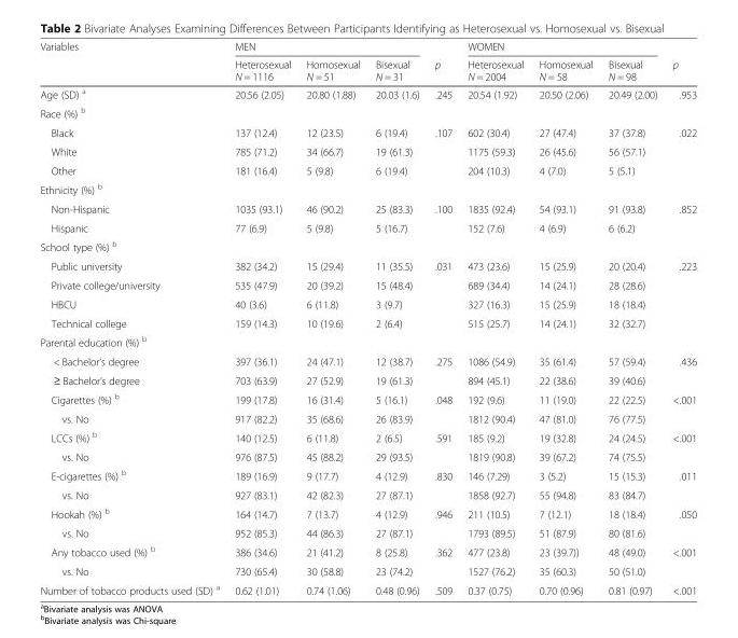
<table><thead><tr><td rowspan="2">Variables</td><td colspan="3">MEN</td><td rowspan="2">p</td><td colspan="3">WOMEN</td><td rowspan="2">p</td></tr><tr><td>Heterosexual N = 1116</td><td>Homosexual N = 51</td><td>Bisexual N = 31</td><td>Heterosexual N = 2004</td><td>Homosexual N = 58</td><td>Bisexual N = 98</td></tr></thead><tbody><tr><td>Age (SD) <sup>a</sup></td><td>20.56 (2.05)</td><td>20.80 (1.88)</td><td>20.03 (1.6)</td><td>.245</td><td>20.54 (1.92)</td><td>20.50 (2.06)</td><td>20.49 (2.00)</td><td>.953</td></tr><tr><td colspan="9">Race (%) <sup>b</sup></td></tr><tr><td>Black</td><td>137 (12.4)</td><td>12 (23.5)</td><td>6 (19.4)</td><td>.107</td><td>602 (30.4)</td><td>27 (47.4)</td><td>37 (37.8)</td><td>.022</td></tr><tr><td>White</td><td>785 (71.2)</td><td>34 (66.7)</td><td>19 (61.3)</td><td></td><td>1175 (59.3)</td><td>26 (45.6)</td><td>56 (57.1)</td><td></td></tr><tr><td>Other</td><td>181 (16.4)</td><td>5 (9.8)</td><td>6 (19.4)</td><td></td><td>204 (10.3)</td><td>4 (7.0)</td><td>5 (5.1)</td><td></td></tr><tr><td colspan="9">Ethnicity (%) <sup>b</sup></td></tr><tr><td>Non-Hispanic</td><td>1035 (93.1)</td><td>46 (90.2)</td><td>25 (83.3)</td><td>.100</td><td>1835 (92.4)</td><td>54 (93.1)</td><td>91 (93.8)</td><td>.852</td></tr><tr><td>Hispanic</td><td>77 (6.9)</td><td>5 (9.8)</td><td>5 (16.7)</td><td></td><td>152 (7.6)</td><td>4 (6.9)</td><td>6 (6.2)</td><td></td></tr><tr><td colspan="9">School type (%) <sup>b</sup></td></tr><tr><td>Public university</td><td>382 (34.2)</td><td>15 (29.4)</td><td>11 (35.5)</td><td>.031</td><td>473 (23.6)</td><td>15 (25.9)</td><td>20 (20.4)</td><td>.223</td></tr><tr><td>Private college/university</td><td>535 (47.9)</td><td>20 (39.2)</td><td>15 (48.4)</td><td></td><td>689 (34.4)</td><td>14 (24.1)</td><td>28 (28.6)</td><td></td></tr><tr><td>HBCU</td><td>40 (3.6)</td><td>6 (11.8)</td><td>3 (9.7)</td><td></td><td>327 (16.3)</td><td>15 (25.9)</td><td>18 (18.4)</td><td></td></tr><tr><td>Technical college</td><td>159 (14.3)</td><td>10 (19.6)</td><td>2 (6.4)</td><td></td><td>515 (25.7)</td><td>14 (24.1)</td><td>32 (32.7)</td><td></td></tr><tr><td colspan="9">Parental education (%) <sup>b</sup></td></tr><tr><td>&lt; Bachelor’s degree</td><td>397 (36.1)</td><td>24 (47.1)</td><td>12 (38.7)</td><td>.275</td><td>1086 (54.9)</td><td>35 (61.4)</td><td>57 (59.4)</td><td>.436</td></tr><tr><td>≥ Bachelor’s degree</td><td>703 (63.9)</td><td>27 (52.9)</td><td>19 (61.3)</td><td></td><td>894 (45.1)</td><td>22 (38.6)</td><td>39 (40.6)</td><td></td></tr><tr><td>Cigarettes (%) <sup>b</sup></td><td>199 (17.8)</td><td>16 (31.4)</td><td>5 (16.1)</td><td>.048</td><td>192 (9.6)</td><td>11 (19.0)</td><td>22 (22.5)</td><td>&lt;.001</td></tr><tr><td>vs. No</td><td>917 (82.2)</td><td>35 (68.6)</td><td>26 (83.9)</td><td></td><td>1812 (90.4)</td><td>47 (81.0)</td><td>76 (77.5)</td><td></td></tr><tr><td>LCCs (%) <sup>b</sup></td><td>140 (12.5)</td><td>6 (11.8)</td><td>2 (6.5)</td><td>.591</td><td>185 (9.2)</td><td>19 (32.8)</td><td>24 (24.5)</td><td>&lt;.001</td></tr><tr><td>vs. No</td><td>976 (87.5)</td><td>45 (88.2)</td><td>29 (93.5)</td><td></td><td>1819 (90.8)</td><td>39 (67.2)</td><td>74 (75.5)</td><td></td></tr><tr><td>E-cigarettes (%) <sup>b</sup></td><td>189 (16.9)</td><td>9 (17.7)</td><td>4 (12.9)</td><td>.830</td><td>146 (7.29)</td><td>3 (5.2)</td><td>15 (15.3)</td><td>.011</td></tr><tr><td>vs. No</td><td>927 (83.1)</td><td>42 (82.3)</td><td>27 (87.1)</td><td></td><td>1858 (92.7)</td><td>55 (94.8)</td><td>83 (84.7)</td><td></td></tr><tr><td>Hookah (%) <sup>b</sup></td><td>164 (14.7)</td><td>7 (13.7)</td><td>4 (12.9)</td><td>.946</td><td>211 (10.5)</td><td>7 (12.1)</td><td>18 (18.4)</td><td>.050</td></tr><tr><td>vs. No</td><td>952 (85.3)</td><td>44 (86.3)</td><td>27 (87.1)</td><td></td><td>1793 (89.5)</td><td>51 (87.9)</td><td>80 (81.6)</td><td></td></tr><tr><td>Any tobacco used (%) <sup>b</sup></td><td>386 (34.6)</td><td>21 (41.2)</td><td>8 (25.8)</td><td>.362</td><td>477 (23.8)</td><td>23 (39.7))</td><td>48 (49.0)</td><td>&lt;.001</td></tr><tr><td>vs. No</td><td>730 (65.4)</td><td>30 (58.8)</td><td>23 (74.2)</td><td></td><td>1527 (76.2)</td><td>35 (60.3)</td><td>50 (51.0)</td><td></td></tr><tr><td>Number of tobacco products used (SD) <sup>a</sup></td><td>0.62 (1.01)</td><td>0.74 (1.06)</td><td>0.48 (0.96)</td><td>.509</td><td>0.37 (0.75)</td><td>0.70 (0.96)</td><td>0.81 (0.97)</td><td>&lt;.001</td></tr></tbody></table>